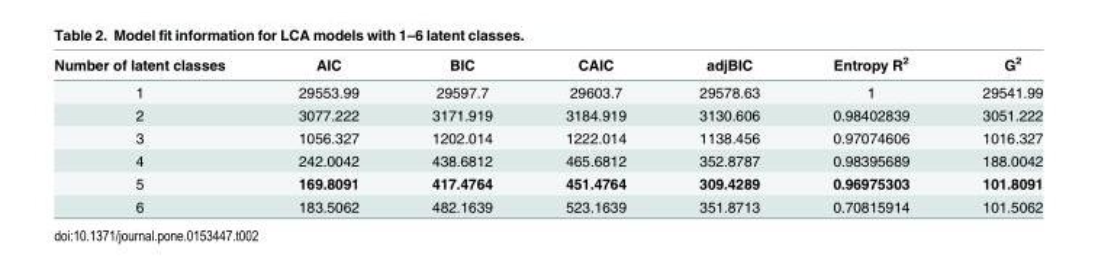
<table><thead><tr><td>Number of latent classes</td><td>AIC</td><td>BIC</td><td>CAIC</td><td>adjBIC</td><td>Entropy R<sup>2</sup></td><td>G<sup>2</sup></td></tr></thead><tbody><tr><td>1</td><td>29553.99</td><td>29597.7</td><td>29603.7</td><td>29578.63</td><td>1</td><td>29541.99</td></tr><tr><td>2</td><td>3077.222</td><td>3171.919</td><td>3184.919</td><td>3130.606</td><td>0.98402839</td><td>3051.222</td></tr><tr><td>3</td><td>1056.327</td><td>1202.014</td><td>1222.014</td><td>1138.456</td><td>0.97074606</td><td>1016.327</td></tr><tr><td>4</td><td>242.0042</td><td>438.6812</td><td>465.6812</td><td>352.8787</td><td>0.98395689</td><td>188.0042</td></tr><tr><td>5</td><td>169.8091</td><td>417.4764</td><td>451.4764</td><td>309.4289</td><td>0.96975303</td><td>101.8091</td></tr><tr><td>6</td><td>183.5062</td><td>482.1639</td><td>523.1639</td><td>351.8713</td><td>0.70815914</td><td>101.5062</td></tr></tbody></table>